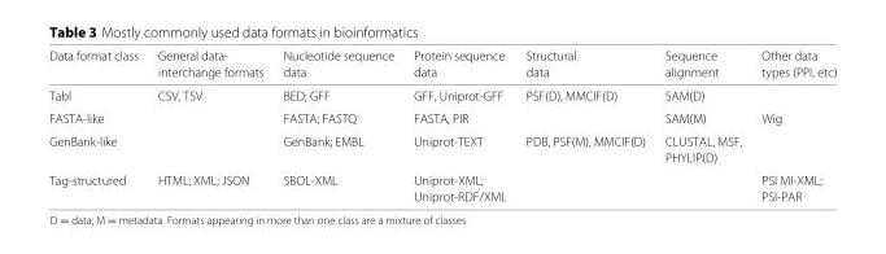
<table><thead><tr><td rowspan="2">Data format class</td><td rowspan="2">General data- interchange formats</td><td rowspan="2">Nucleotide sequence data</td><td rowspan="2">Protein sequence data</td><td rowspan="2">Structural data</td><td rowspan="2">Sequence alignment</td><td rowspan="2">Other data types (PPI, etc)</td></tr><tr></tr></thead><tbody><tr><td>Tabl</td><td>CSV, TSV</td><td>BED; GFF</td><td>GFF, Uniprot-GFF</td><td>PSF(D), MMCIF(D)</td><td>SAM(D)</td><td></td></tr><tr><td>FASTA-like</td><td></td><td>FASTA; FASTQ</td><td>FASTA, PIR</td><td></td><td>SAM(M)</td><td>Wig</td></tr><tr><td rowspan="2">GenBank-like</td><td></td><td>GenBank; EMBL</td><td>Uniprot-TEXT</td><td>PDB, PSF(M), MMCIF(D)</td><td>CLUSTAL, MSF,</td><td></td></tr><tr><td></td><td></td><td></td><td></td><td>PHYLIP(D)</td><td></td></tr><tr><td rowspan="2">Tag-structured</td><td>HTML; XML; JSON</td><td>SBOL-XML</td><td>Uniprot-XML;</td><td></td><td></td><td>PSI MI-XML;</td></tr><tr><td></td><td></td><td>Uniprot-RDF/XML</td><td></td><td></td><td>PSI-PAR</td></tr></tbody></table>